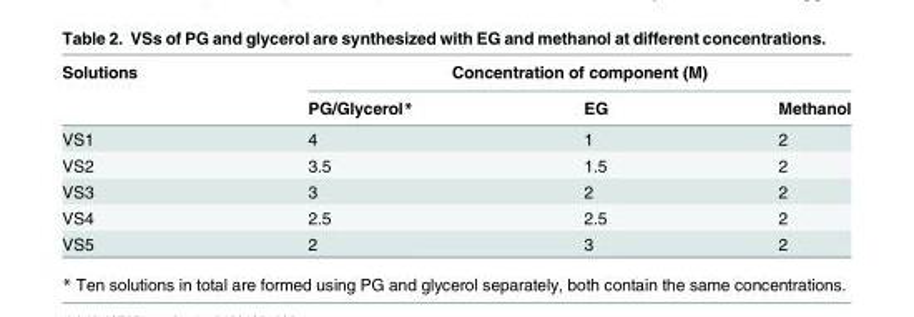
<table><thead><tr><td rowspan="2">Solutions</td><td colspan="3">Concentration of component (M)</td></tr><tr><td>PG/Glycerol*</td><td>EG</td><td>Methanol</td></tr></thead><tbody><tr><td>VS1</td><td>4</td><td>1</td><td>2</td></tr><tr><td>VS2</td><td>3.5</td><td>1.5</td><td>2</td></tr><tr><td>VS3</td><td>3</td><td>2</td><td>2</td></tr><tr><td>VS4</td><td>2.5</td><td>2.5</td><td>2</td></tr><tr><td>VS5</td><td>2</td><td>3</td><td>2</td></tr></tbody></table>